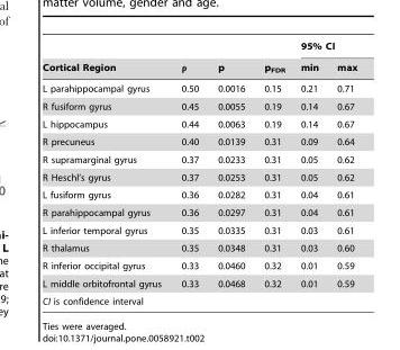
<table><thead><tr><td rowspan="2">Cortical Region</td><td rowspan="2">ρ</td><td rowspan="2">p</td><td rowspan="2">p<sub>FDR</sub></td><td colspan="2">95% CI</td></tr><tr><td>min</td><td>max</td></tr></thead><tbody><tr><td>L parahippocampal gyrus</td><td>0.50</td><td>0.0016</td><td>0.15</td><td>0.21</td><td>0.71</td></tr><tr><td>R fusiform gyrus</td><td>0.45</td><td>0.0055</td><td>0.19</td><td>0.14</td><td>0.67</td></tr><tr><td>L hippocampus</td><td>0.44</td><td>0.0063</td><td>0.19</td><td>0.14</td><td>0.67</td></tr><tr><td>R precuneus</td><td>0.40</td><td>0.0139</td><td>0.31</td><td>0.09</td><td>0.64</td></tr><tr><td>R supramarginal gyrus</td><td>0.37</td><td>0.0233</td><td>0.31</td><td>0.05</td><td>0.62</td></tr><tr><td>R Heschl’s gyrus</td><td>0.37</td><td>0.0253</td><td>0.31</td><td>0.05</td><td>0.62</td></tr><tr><td>L fusiform gyrus</td><td>0.36</td><td>0.0282</td><td>0.31</td><td>0.04</td><td>0.61</td></tr><tr><td>R parahippocampal gyrus</td><td>0.36</td><td>0.0297</td><td>0.31</td><td>0.04</td><td>0.61</td></tr><tr><td>L inferior temporal gyrus</td><td>0.35</td><td>0.0335</td><td>0.31</td><td>0.03</td><td>0.61</td></tr><tr><td>R thalamus</td><td>0.35</td><td>0.0348</td><td>0.31</td><td>0.03</td><td>0.60</td></tr><tr><td>R inferior occipital gyrus</td><td>0.33</td><td>0.0460</td><td>0.32</td><td>0.01</td><td>0.59</td></tr><tr><td>L middle orbitofrontal gyrus</td><td>0.33</td><td>0.0468</td><td>0.32</td><td>0.01</td><td>0.59</td></tr><tr><td>CI is confidence interval</td><td></td><td></td><td></td><td></td><td></td></tr></tbody></table>